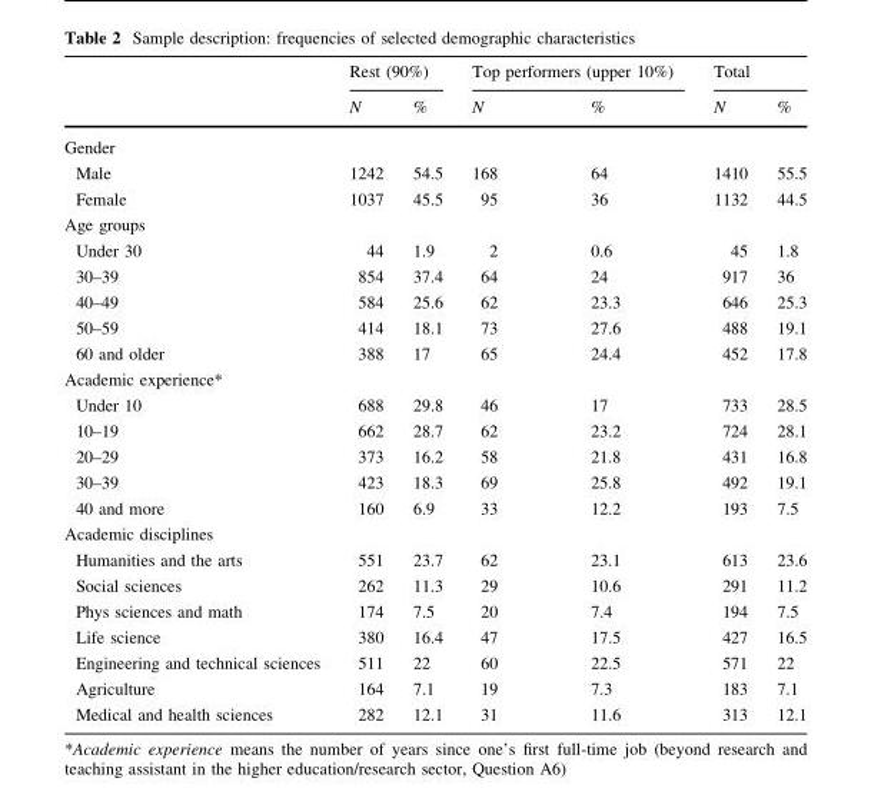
<table><thead><tr><td rowspan="2"></td><td colspan="2">Rest (90%)</td><td colspan="2">Top performers (upper 10%)</td><td colspan="2">Total</td></tr><tr><td>N</td><td>%</td><td>N</td><td>%</td><td>N</td><td>%</td></tr></thead><tbody><tr><td colspan="7">Gender</td></tr><tr><td>Male</td><td>1242</td><td>54.5</td><td>168</td><td>64</td><td>1410</td><td>55.5</td></tr><tr><td>Female</td><td>1037</td><td>45.5</td><td>95</td><td>36</td><td>1132</td><td>44.5</td></tr><tr><td colspan="7">Age groups</td></tr><tr><td>Under 30</td><td>44</td><td>1.9</td><td>2</td><td>0.6</td><td>45</td><td>1.8</td></tr><tr><td>30–39</td><td>854</td><td>37.4</td><td>64</td><td>24</td><td>917</td><td>36</td></tr><tr><td>40–49</td><td>584</td><td>25.6</td><td>62</td><td>23.3</td><td>646</td><td>25.3</td></tr><tr><td>50–59</td><td>414</td><td>18.1</td><td>73</td><td>27.6</td><td>488</td><td>19.1</td></tr><tr><td>60 and older</td><td>388</td><td>17</td><td>65</td><td>24.4</td><td>452</td><td>17.8</td></tr><tr><td colspan="7">Academic experience*</td></tr><tr><td>Under 10</td><td>688</td><td>29.8</td><td>46</td><td>17</td><td>733</td><td>28.5</td></tr><tr><td>10–19</td><td>662</td><td>28.7</td><td>62</td><td>23.2</td><td>724</td><td>28.1</td></tr><tr><td>20–29</td><td>373</td><td>16.2</td><td>58</td><td>21.8</td><td>431</td><td>16.8</td></tr><tr><td>30–39</td><td>423</td><td>18.3</td><td>69</td><td>25.8</td><td>492</td><td>19.1</td></tr><tr><td>40 and more</td><td>160</td><td>6.9</td><td>33</td><td>12.2</td><td>193</td><td>7.5</td></tr><tr><td colspan="7">Academic disciplines</td></tr><tr><td>Humanities and the arts</td><td>551</td><td>23.7</td><td>62</td><td>23.1</td><td>613</td><td>23.6</td></tr><tr><td>Social sciences</td><td>262</td><td>11.3</td><td>29</td><td>10.6</td><td>291</td><td>11.2</td></tr><tr><td>Phys sciences and math</td><td>174</td><td>7.5</td><td>20</td><td>7.4</td><td>194</td><td>7.5</td></tr><tr><td>Life science</td><td>380</td><td>16.4</td><td>47</td><td>17.5</td><td>427</td><td>16.5</td></tr><tr><td>Engineering and technical sciences</td><td>511</td><td>22</td><td>60</td><td>22.5</td><td>571</td><td>22</td></tr><tr><td>Agriculture</td><td>164</td><td>7.1</td><td>19</td><td>7.3</td><td>183</td><td>7.1</td></tr><tr><td>Medical and health sciences</td><td>282</td><td>12.1</td><td>31</td><td>11.6</td><td>313</td><td>12.1</td></tr></tbody></table>